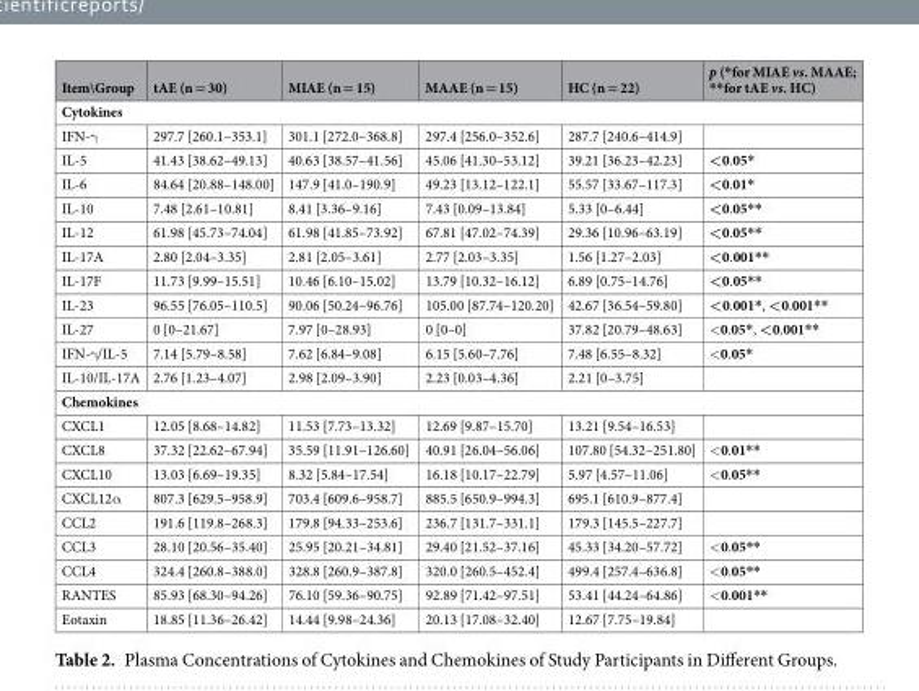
<table><thead><tr><td>Item\Group</td><td>tAE (n = 30)</td><td>MIAE (n = 15)</td><td>MAAE (n = 15)</td><td>HC (n = 22)</td><td>p (*for MIAE vs. MAAE; **for tAE vs. HC)</td></tr></thead><tbody><tr><td colspan="6">Cytokines</td></tr><tr><td>IFN-γ</td><td>297.7 [260.1–353.1]</td><td>301.1 [272.0–368.8]</td><td>297.4 [256.0–352.6]</td><td>287.7 [240.6–414.9]</td><td></td></tr><tr><td>IL-5</td><td>41.43 [38.62–49.13]</td><td>40.63 [38.57–41.56]</td><td>45.06 [41.30–53.12]</td><td>39.21 [36.23–42.23]</td><td>&lt;0.05*</td></tr><tr><td>IL-6</td><td>84.64 [20.88–148.00]</td><td>147.9 [41.0–190.9]</td><td>49.23 [13.12–122.1]</td><td>55.57 [33.67–117.3]</td><td>&lt;0.01*</td></tr><tr><td>IL-10</td><td>7.48 [2.61–10.81]</td><td>8.41 [3.36–9.16]</td><td>7.43 [0.09–13.84]</td><td>5.33 [0–6.44]</td><td>&lt;0.05**</td></tr><tr><td>IL-12</td><td>61.98 [45.73–74.04]</td><td>61.98 [41.85–73.92]</td><td>67.81 [47.02–74.39]</td><td>29.36 [10.96–63.19]</td><td>&lt;0.05**</td></tr><tr><td>IL-17A</td><td>2.80 [2.04–3.35]</td><td>2.81 [2.05–3.61]</td><td>2.77 [2.03–3.35]</td><td>1.56 [1.27–2.03]</td><td>&lt;0.001**</td></tr><tr><td>IL-17F</td><td>11.73 [9.99–15.51]</td><td>10.46 [6.10–15.02]</td><td>13.79 [10.32–16.12]</td><td>6.89 [0.75–14.76]</td><td>&lt;0.05**</td></tr><tr><td>IL-23</td><td>96.55 [76.05–110.5]</td><td>90.06 [50.24–96.76]</td><td>105.00 [87.74–120.20]</td><td>42.67 [36.54–59.80]</td><td>&lt;0.001*, &lt;0.001**</td></tr><tr><td>IL-27</td><td>0 [0–21.67]</td><td>7.97 [0–28.93]</td><td>0 [0–0]</td><td>37.82 [20.79–48.63]</td><td>&lt;0.05*, &lt;0.001**</td></tr><tr><td>IFN-γ/IL-5</td><td>7.14 [5.79–8.58]</td><td>7.62 [6.84–9.08]</td><td>6.15 [5.60–7.76]</td><td>7.48 [6.55–8.32]</td><td>&lt;0.05*</td></tr><tr><td>IL-10/IL-17A</td><td>2.76 [1.23–4.07]</td><td>2.98 [2.09–3.90]</td><td>2.23 [0.03–4.36]</td><td>2.21 [0–3.75]</td><td></td></tr><tr><td colspan="6">Chemokines</td></tr><tr><td>CXCL1</td><td>12.05 [8.68–14.82]</td><td>11.53 [7.73–13.32]</td><td>12.69 [9.87–15.70]</td><td>13.21 [9.54–16.53]</td><td></td></tr><tr><td>CXCL8</td><td>37.32 [22.62–67.94]</td><td>35.59 [11.91–126.60]</td><td>40.91 [26.04–56.06]</td><td>107.80 [54.32–251.80]</td><td>&lt;0.01**</td></tr><tr><td>CXCL10</td><td>13.03 [6.69–19.35]</td><td>8.32 [5.84–17.54]</td><td>16.18 [10.17–22.79]</td><td>5.97 [4.57–11.06]</td><td>&lt;0.05**</td></tr><tr><td>CXCL12α</td><td>807.3 [629.5–958.9]</td><td>703.4 [609.6–958.7]</td><td>885.5 [650.9–994.3]</td><td>695.1 [610.9–877.4]</td><td></td></tr><tr><td>CCL2</td><td>191.6 [119.8–268.3]</td><td>179.8 [94.33–253.6]</td><td>236.7 [131.7–331.1]</td><td>179.3 [145.5–227.7]</td><td></td></tr><tr><td>CCL3</td><td>28.10 [20.56–35.40]</td><td>25.95 [20.21–34.81]</td><td>29.40 [21.52–37.16]</td><td>45.33 [34.20–57.72]</td><td>&lt;0.05**</td></tr><tr><td>CCL4</td><td>324.4 [260.8–388.0]</td><td>328.8 [260.9–387.8]</td><td>320.0 [260.5–452.4]</td><td>499.4 [257.4–636.8]</td><td>&lt;0.05**</td></tr><tr><td>RANTES</td><td>85.93 [68.30–94.26]</td><td>76.10 [59.36–90.75]</td><td>92.89 [71.42–97.51]</td><td>53.41 [44.24–64.86]</td><td>&lt;0.001**</td></tr><tr><td>Eotaxin</td><td>18.85 [11.36–26.42]</td><td>14.44 [9.98–24.36]</td><td>20.13 [17.08–32.40]</td><td>12.67 [7.75–19.84]</td><td></td></tr></tbody></table>